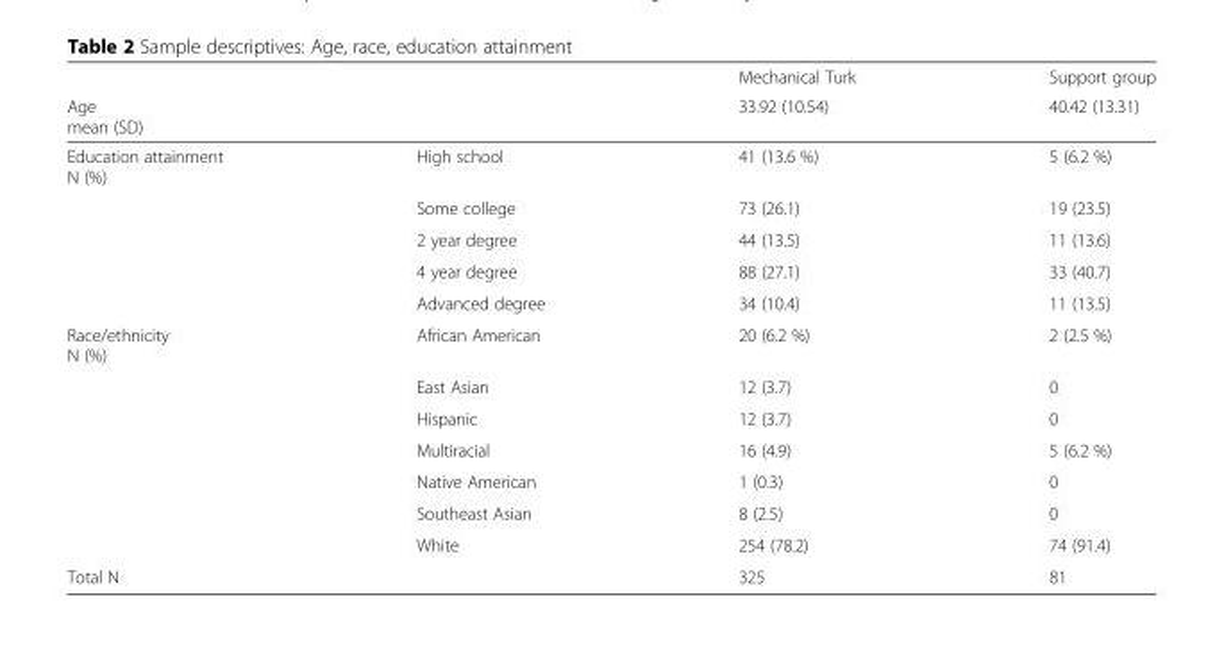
<table><thead><tr><td rowspan="2">Age mean (SD)</td><td rowspan="2"></td><td rowspan="2">Mechanical Turk 33.92 (10.54)</td><td rowspan="2">Support group 40.42 (13.31)</td></tr><tr></tr></thead><tbody><tr><td rowspan="5">Education attainment N (%)</td><td>High school</td><td>41 (13.6 %)</td><td>5 (6.2 %)</td></tr><tr><td>Some college</td><td>73 (26.1)</td><td>19 (23.5)</td></tr><tr><td>2 year degree</td><td>44 (13.5)</td><td>11 (13.6)</td></tr><tr><td>4 year degree</td><td>88 (27.1)</td><td>33 (40.7)</td></tr><tr><td>Advanced degree</td><td>34 (10.4)</td><td>11 (13.5)</td></tr><tr><td rowspan="7">Race/ethnicity N (%)</td><td>African American</td><td>20 (6.2 %)</td><td>2 (2.5 %)</td></tr><tr><td>East Asian</td><td>12 (3.7)</td><td>0</td></tr><tr><td>Hispanic</td><td>12 (3.7)</td><td>0</td></tr><tr><td>Multiracial</td><td>16 (4.9)</td><td>5 (6.2 %)</td></tr><tr><td>Native American</td><td>1 (0.3)</td><td>0</td></tr><tr><td>Southeast Asian</td><td>8 (2.5)</td><td>0</td></tr><tr><td>White</td><td>254 (78.2)</td><td>74 (91.4)</td></tr><tr><td>Total N</td><td></td><td>325</td><td>81</td></tr></tbody></table>